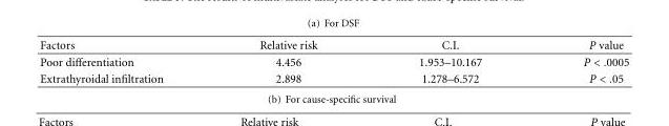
<table><thead><tr><td>Factors</td><td>Relative risk</td><td>C.I.</td><td>P value</td></tr></thead><tbody><tr><td>Poor differentiation</td><td>4.456</td><td>1.953–10.167</td><td>P &lt; .0005</td></tr><tr><td>Extrathyroidal infiltration</td><td>2.898</td><td>1.278–6.572</td><td>P &lt; .05</td></tr></tbody></table>